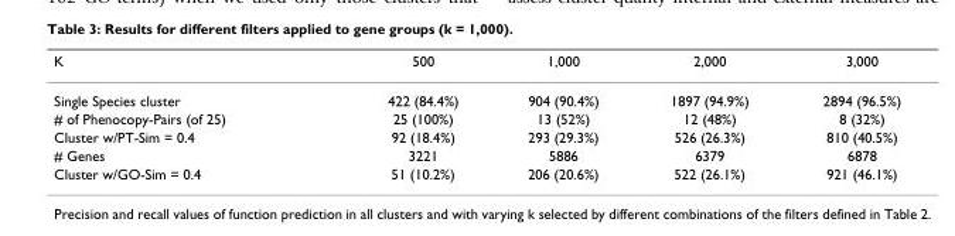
<table><thead><tr><td>K</td><td>500</td><td>1,000</td><td>2,000</td><td>3,000</td></tr></thead><tbody><tr><td>Single Species cluster</td><td>422 (84.4%)</td><td>904 (90.4%)</td><td>1897 (94.9%)</td><td>2894 (96.5%)</td></tr><tr><td># of Phenocopy-Pairs (of 25)</td><td>25 (100%)</td><td>13 (52%)</td><td>12 (48%)</td><td>8 (32%)</td></tr><tr><td>Cluster w/PT-Sim = 0.4</td><td>92 (18.4%)</td><td>293 (29.3%)</td><td>526 (26.3%)</td><td>810 (40.5%)</td></tr><tr><td># Genes</td><td>3221</td><td>5886</td><td>6379</td><td>6878</td></tr><tr><td>Cluster w/GO-Sim = 0.4</td><td>51 (10.2%)</td><td>206 (20.6%)</td><td>522 (26.1%)</td><td>921 (46.1%)</td></tr></tbody></table>